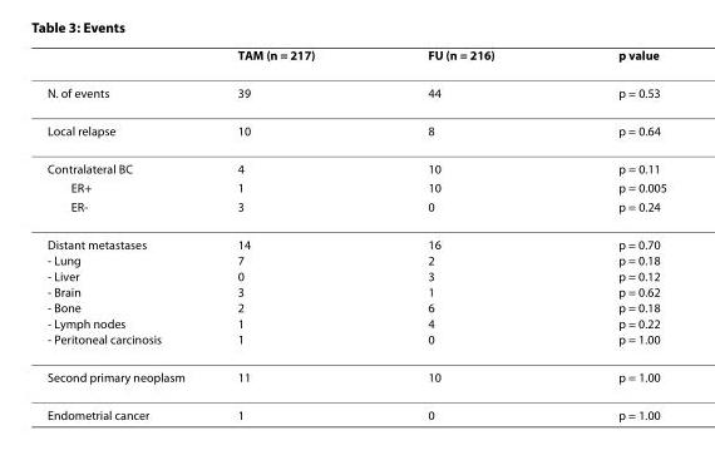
<table><thead><tr><td></td><td>TAM (n = 217)</td><td>FU (n = 216)</td><td>p value</td></tr></thead><tbody><tr><td>N. of events</td><td>39</td><td>44</td><td>p = 0.53</td></tr><tr><td>Local relapse</td><td>10</td><td>8</td><td>p = 0.64</td></tr><tr><td>Contralateral BC</td><td>4</td><td>10</td><td>p = 0.11</td></tr><tr><td>ER+</td><td>1</td><td>10</td><td>p = 0.005</td></tr><tr><td>ER-</td><td>3</td><td>0</td><td>p = 0.24</td></tr><tr><td>Distant metastases - Lung - Liver - Brain - Bone - Lymph nodes - Peritoneal carcinosis</td><td>14 7 0 3 2 1 1</td><td>16 2 3 1 6 4 0</td><td>p = 0.70 p = 0.18 p = 0.12 p = 0.62 p = 0.18 p = 0.22 p = 1.00</td></tr><tr><td>Second primary neoplasm</td><td>11</td><td>10</td><td>p = 1.00</td></tr><tr><td>Endometrial cancer</td><td>1</td><td>0</td><td>p = 1.00</td></tr></tbody></table>